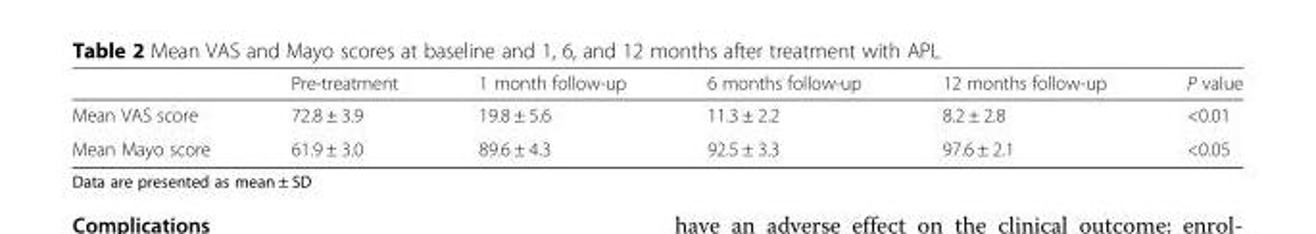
<table><thead><tr><td></td><td>Pre-treatment</td><td>1 month follow-up</td><td>6 months follow-up</td><td>12 months follow-up</td><td>P value</td></tr></thead><tbody><tr><td>Mean VAS score</td><td>72.8 ± 3.9</td><td>19.8 ± 5.6</td><td>11.3 ± 2.2</td><td>8.2 ± 2.8</td><td>&lt;0.01</td></tr><tr><td>Mean Mayo score</td><td>61.9 ± 3.0</td><td>89.6 ± 4.3</td><td>92.5 ± 3.3</td><td>97.6 ± 2.1</td><td>&lt;0.05</td></tr></tbody></table>